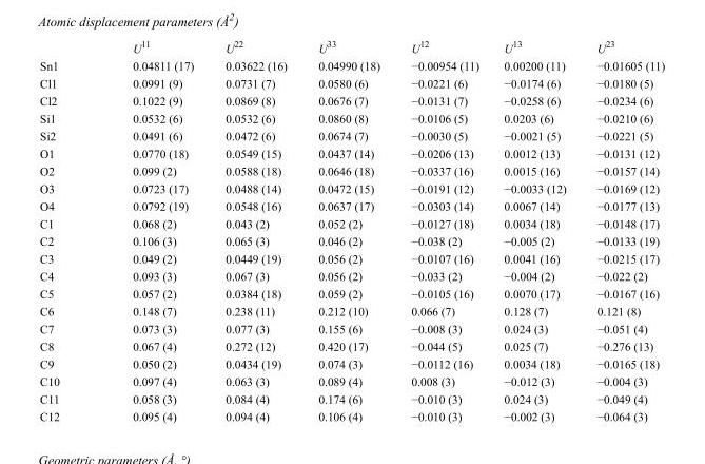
<table><thead><tr><td></td><td>U<sup>11</sup></td><td>U<sup>22</sup></td><td>U<sup>33</sup></td><td>U<sup>12</sup></td><td>U<sup>13</sup></td><td>U<sup>23</sup></td></tr></thead><tbody><tr><td>Sn1</td><td>0.04811 (17)</td><td>0.03622 (16)</td><td>0.04990 (18)</td><td>−0.00954 (11)</td><td>0.00200 (11)</td><td>−0.01605 (11)</td></tr><tr><td>Cl1</td><td>0.0991 (9)</td><td>0.0731 (7)</td><td>0.0580 (6)</td><td>−0.0221 (6)</td><td>−0.0174 (6)</td><td>−0.0180 (5)</td></tr><tr><td>Cl2</td><td>0.1022 (9)</td><td>0.0869 (8)</td><td>0.0676 (7)</td><td>−0.0131 (7)</td><td>−0.0258 (6)</td><td>−0.0234 (6)</td></tr><tr><td>Si1</td><td>0.0532 (6)</td><td>0.0532 (6)</td><td>0.0860 (8)</td><td>−0.0106 (5)</td><td>0.0203 (6)</td><td>−0.0210 (6)</td></tr><tr><td>Si2</td><td>0.0491 (6)</td><td>0.0472 (6)</td><td>0.0674 (7)</td><td>−0.0030 (5)</td><td>−0.0021 (5)</td><td>−0.0221 (5)</td></tr><tr><td>O1</td><td>0.0770 (18)</td><td>0.0549 (15)</td><td>0.0437 (14)</td><td>−0.0206 (13)</td><td>0.0012 (13)</td><td>−0.0131 (12)</td></tr><tr><td>O2</td><td>0.099 (2)</td><td>0.0588 (18)</td><td>0.0646 (18)</td><td>−0.0337 (16)</td><td>0.0015 (16)</td><td>−0.0157 (14)</td></tr><tr><td>O3</td><td>0.0723 (17)</td><td>0.0488 (14)</td><td>0.0472 (15)</td><td>−0.0191 (12)</td><td>−0.0033 (12)</td><td>−0.0169 (12)</td></tr><tr><td>O4</td><td>0.0792 (19)</td><td>0.0548 (16)</td><td>0.0637 (17)</td><td>−0.0303 (14)</td><td>0.0067 (14)</td><td>−0.0177 (13)</td></tr><tr><td>C1</td><td>0.068 (2)</td><td>0.043 (2)</td><td>0.052 (2)</td><td>−0.0127 (18)</td><td>0.0034 (18)</td><td>−0.0148 (17)</td></tr><tr><td>C2</td><td>0.106 (3)</td><td>0.065 (3)</td><td>0.046 (2)</td><td>−0.038 (2)</td><td>−0.005 (2)</td><td>−0.0133 (19)</td></tr><tr><td>C3</td><td>0.049 (2)</td><td>0.0449 (19)</td><td>0.056 (2)</td><td>−0.0107 (16)</td><td>0.0041 (16)</td><td>−0.0215 (17)</td></tr><tr><td>C4</td><td>0.093 (3)</td><td>0.067 (3)</td><td>0.056 (2)</td><td>−0.033 (2)</td><td>−0.004 (2)</td><td>−0.022 (2)</td></tr><tr><td>C5</td><td>0.057 (2)</td><td>0.0384 (18)</td><td>0.059 (2)</td><td>−0.0105 (16)</td><td>0.0070 (17)</td><td>−0.0167 (16)</td></tr><tr><td>C6</td><td>0.148 (7)</td><td>0.238 (11)</td><td>0.212 (10)</td><td>0.066 (7)</td><td>0.128 (7)</td><td>0.121 (8)</td></tr><tr><td>C7</td><td>0.073 (3)</td><td>0.077 (3)</td><td>0.155 (6)</td><td>−0.008 (3)</td><td>0.024 (3)</td><td>−0.051 (4)</td></tr><tr><td>C8</td><td>0.067 (4)</td><td>0.272 (12)</td><td>0.420 (17)</td><td>−0.044 (5)</td><td>0.025 (7)</td><td>−0.276 (13)</td></tr><tr><td>C9</td><td>0.050 (2)</td><td>0.0434 (19)</td><td>0.074 (3)</td><td>−0.0112 (16)</td><td>0.0034 (18)</td><td>−0.0165 (18)</td></tr><tr><td>C10</td><td>0.097 (4)</td><td>0.063 (3)</td><td>0.089 (4)</td><td>0.008 (3)</td><td>−0.012 (3)</td><td>−0.004 (3)</td></tr><tr><td>C11</td><td>0.058 (3)</td><td>0.084 (4)</td><td>0.174 (6)</td><td>−0.010 (3)</td><td>0.024 (3)</td><td>−0.049 (4)</td></tr><tr><td>C12</td><td>0.095 (4)</td><td>0.094 (4)</td><td>0.106 (4)</td><td>−0.010 (3)</td><td>−0.002 (3)</td><td>−0.064 (3)</td></tr></tbody></table>